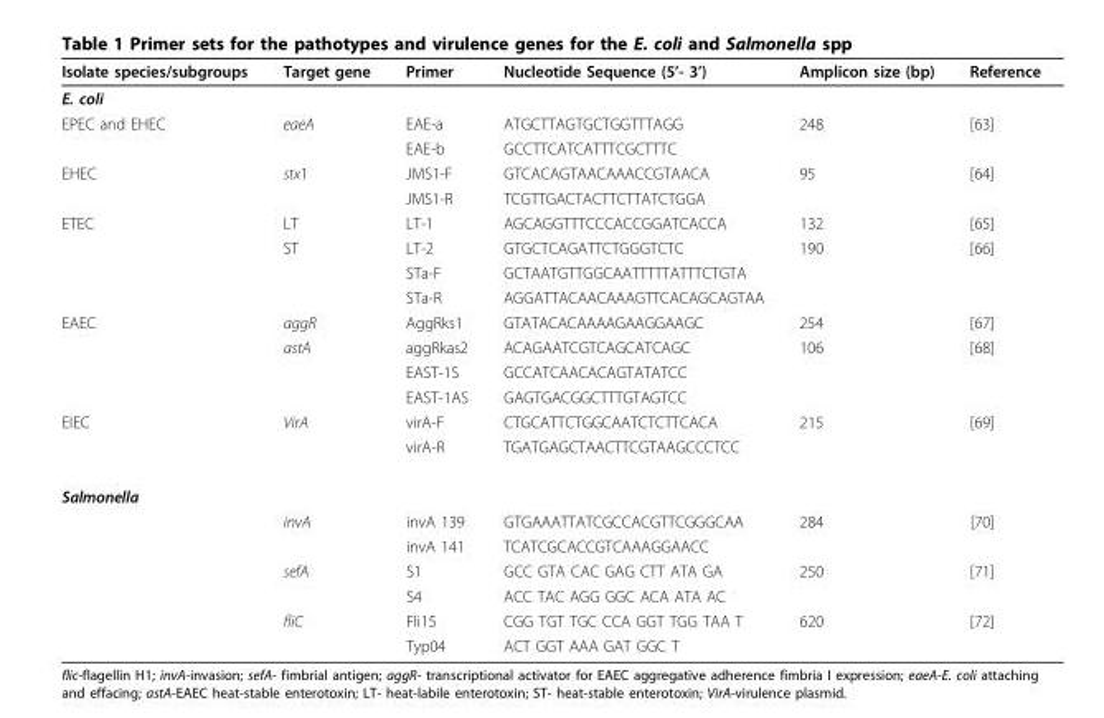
<table><thead><tr><td>Isolate species/subgroups</td><td>Target gene</td><td>Primer</td><td>Nucleotide Sequence (5’- 3’)</td><td>Amplicon size (bp)</td><td>Reference</td></tr></thead><tbody><tr><td colspan="6">E. coli</td></tr><tr><td rowspan="2">EPEC and EHEC</td><td>eaeA</td><td>EAE-a</td><td>ATGCTTAGTGCTGGTTTAGG</td><td>248</td><td>[63]</td></tr><tr><td></td><td>EAE-b</td><td>GCCTTCATCATTTCGCTTTC</td><td></td><td></td></tr><tr><td rowspan="2">EHEC</td><td>stx1</td><td>JMS1-F</td><td>GTCACAGTAACAAACCGTAACA</td><td>95</td><td>[64]</td></tr><tr><td></td><td>JMS1-R</td><td>TCGTTGACTACTTCTTATCTGGA</td><td></td><td></td></tr><tr><td rowspan="4">ETEC</td><td>LT</td><td>LT-1</td><td>AGCAGGTTTCCCACCGGATCACCA</td><td>132</td><td>[65]</td></tr><tr><td>ST</td><td>LT-2</td><td>GTGCTCAGATTCTGGGTCTC</td><td>190</td><td>[66]</td></tr><tr><td></td><td>STa-F</td><td>GCTAATGTTGGCAATTTTTATTTCTGTA</td><td></td><td></td></tr><tr><td></td><td>STa-R</td><td>AGGATTACAACAAAGTTCACAGCAGTAA</td><td></td><td></td></tr><tr><td rowspan="4">EAEC</td><td>aggR</td><td>AggRks1</td><td>GTATACACAAAAGAAGGAAGC</td><td>254</td><td>[67]</td></tr><tr><td>astA</td><td>aggRkas2</td><td>ACAGAATCGTCAGCATCAGC</td><td>106</td><td>[68]</td></tr><tr><td></td><td>EAST-1S</td><td>GCCATCAACACAGTATATCC</td><td></td><td></td></tr><tr><td></td><td>EAST-1AS</td><td>GAGTGACGGCTTTGTAGTCC</td><td></td><td></td></tr><tr><td rowspan="2">EIEC</td><td>VirA</td><td>virA-F</td><td>CTGCATTCTGGCAATCTCTTCACA</td><td>215</td><td>[69]</td></tr><tr><td></td><td>virA-R</td><td>TGATGAGCTAACTTCGTAAGCCCTCC</td><td></td><td></td></tr><tr><td colspan="6">Salmonella</td></tr><tr><td></td><td>invA</td><td>invA 139</td><td>GTGAAATTATCGCCACGTTCGGGCAA</td><td>284</td><td>[70]</td></tr><tr><td></td><td></td><td>invA 141</td><td>TCATCGCACCGTCAAAGGAACC</td><td></td><td></td></tr><tr><td></td><td>sefA</td><td>S1</td><td>GCC GTA CAC GAG CTT ATA GA</td><td>250</td><td>[71]</td></tr><tr><td></td><td></td><td>S4</td><td>ACC TAC AGG GGC ACA ATA AC</td><td></td><td></td></tr><tr><td></td><td>fliC</td><td>Fli15</td><td>CGG TGT TGC CCA GGT TGG TAA T</td><td>620</td><td>[72]</td></tr><tr><td></td><td></td><td>Typ04</td><td>ACT GGT AAA GAT GGC T</td><td></td><td></td></tr></tbody></table>